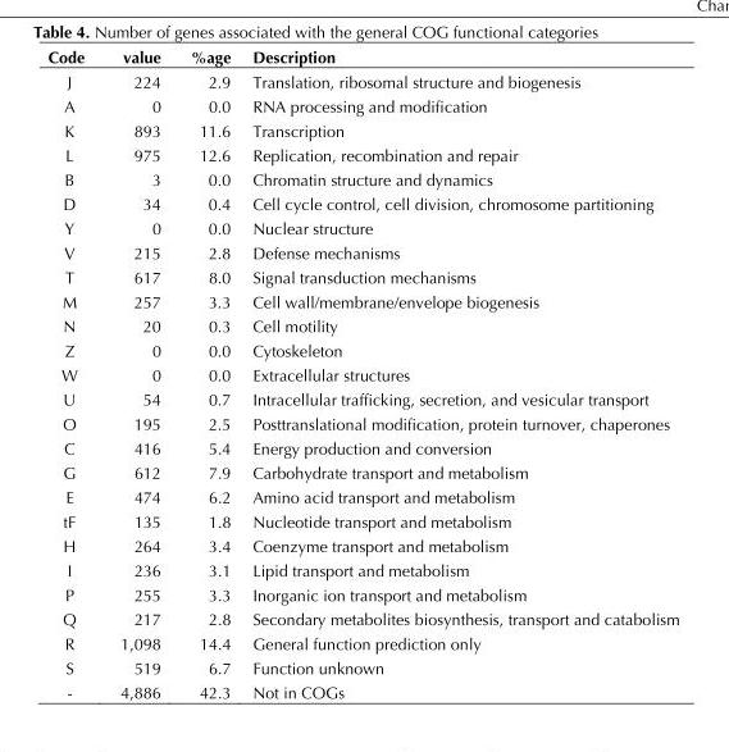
<table><thead><tr><td>Code</td><td>value</td><td>%age</td><td>Description</td></tr></thead><tbody><tr><td>J</td><td>224</td><td>2.9</td><td>Translation, ribosomal structure and biogenesis</td></tr><tr><td>A</td><td>0</td><td>0.0</td><td>RNA processing and modification</td></tr><tr><td>K</td><td>893</td><td>11.6</td><td>Transcription</td></tr><tr><td>L</td><td>975</td><td>12.6</td><td>Replication, recombination and repair</td></tr><tr><td>B</td><td>3</td><td>0.0</td><td>Chromatin structure and dynamics</td></tr><tr><td>D</td><td>34</td><td>0.4</td><td>Cell cycle control, cell division, chromosome partitioning</td></tr><tr><td>Y</td><td>0</td><td>0.0</td><td>Nuclear structure</td></tr><tr><td>V</td><td>215</td><td>2.8</td><td>Defense mechanisms</td></tr><tr><td>T</td><td>617</td><td>8.0</td><td>Signal transduction mechanisms</td></tr><tr><td>M</td><td>257</td><td>3.3</td><td>Cell wall/membrane/envelope biogenesis</td></tr><tr><td>N</td><td>20</td><td>0.3</td><td>Cell motility</td></tr><tr><td>Z</td><td>0</td><td>0.0</td><td>Cytoskeleton</td></tr><tr><td>W</td><td>0</td><td>0.0</td><td>Extracellular structures</td></tr><tr><td>U</td><td>54</td><td>0.7</td><td>Intracellular trafficking, secretion, and vesicular transport</td></tr><tr><td>O</td><td>195</td><td>2.5</td><td>Posttranslational modification, protein turnover, chaperones</td></tr><tr><td>C</td><td>416</td><td>5.4</td><td>Energy production and conversion</td></tr><tr><td>G</td><td>612</td><td>7.9</td><td>Carbohydrate transport and metabolism</td></tr><tr><td>E</td><td>474</td><td>6.2</td><td>Amino acid transport and metabolism</td></tr><tr><td>tF</td><td>135</td><td>1.8</td><td>Nucleotide transport and metabolism</td></tr><tr><td>H</td><td>264</td><td>3.4</td><td>Coenzyme transport and metabolism</td></tr><tr><td>I</td><td>236</td><td>3.1</td><td>Lipid transport and metabolism</td></tr><tr><td>P</td><td>255</td><td>3.3</td><td>Inorganic ion transport and metabolism</td></tr><tr><td>Q</td><td>217</td><td>2.8</td><td>Secondary metabolites biosynthesis, transport and catabolism</td></tr><tr><td>R</td><td>1,098</td><td>14.4</td><td>General function prediction only</td></tr><tr><td>S</td><td>519</td><td>6.7</td><td>Function unknown</td></tr><tr><td>-</td><td>4,886</td><td>42.3</td><td>Not in COGs</td></tr></tbody></table>